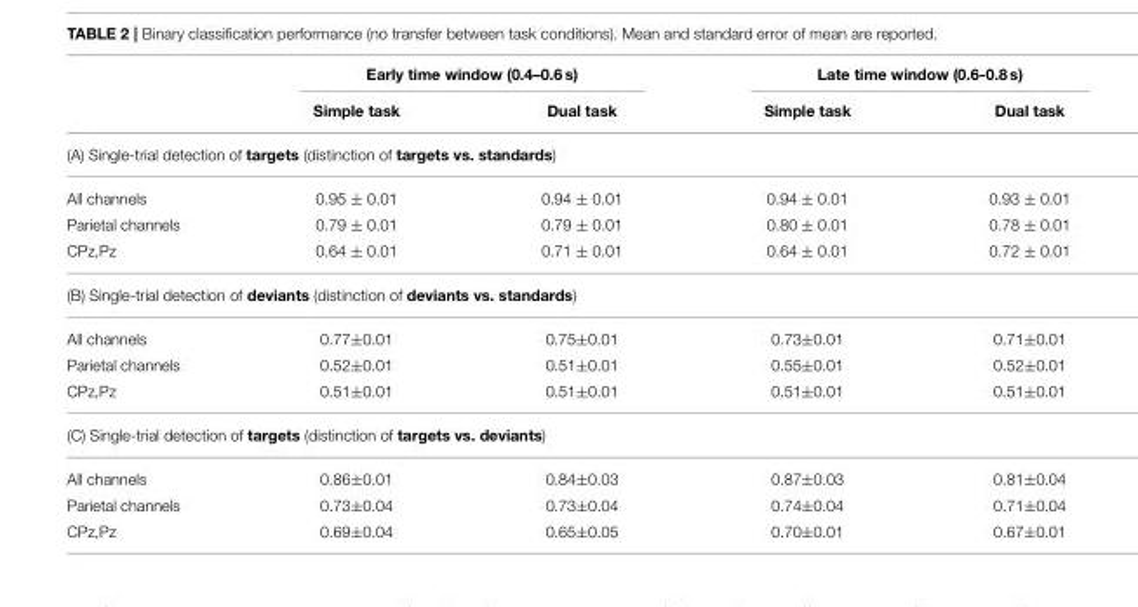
<table><thead><tr><td rowspan="2"></td><td colspan="2">Early time window (0.4–0.6 s)</td><td colspan="2">Late time window (0.6-0.8 s)</td></tr><tr><td>Simple task</td><td>Dual task</td><td>Simple task</td><td>Dual task</td></tr></thead><tbody><tr><td colspan="5">(A) Single-trial detection of targets (distinction of targets vs. standards)</td></tr><tr><td>All channels</td><td>0.95 ± 0.01</td><td>0.94 ± 0.01</td><td>0.94 ± 0.01</td><td>0.93 ± 0.01</td></tr><tr><td>Parietal channels</td><td>0.79 ± 0.01</td><td>0.79 ± 0.01</td><td>0.80 ± 0.01</td><td>0.78 ± 0.01</td></tr><tr><td>CPz,Pz</td><td>0.64 ± 0.01</td><td>0.71 ± 0.01</td><td>0.64 ± 0.01</td><td>0.72 ± 0.01</td></tr><tr><td colspan="5">(B) Single-trial detection of deviants (distinction of deviants vs. standards)</td></tr><tr><td>All channels</td><td>0.77±0.01</td><td>0.75±0.01</td><td>0.73±0.01</td><td>0.71±0.01</td></tr><tr><td>Parietal channels</td><td>0.52±0.01</td><td>0.51±0.01</td><td>0.55±0.01</td><td>0.52±0.01</td></tr><tr><td>CPz,Pz</td><td>0.51±0.01</td><td>0.51±0.01</td><td>0.51±0.01</td><td>0.51±0.01</td></tr><tr><td colspan="5">(C) Single-trial detection of targets (distinction of targets vs. deviants)</td></tr><tr><td>All channels</td><td>0.86±0.01</td><td>0.84±0.03</td><td>0.87±0.03</td><td>0.81±0.04</td></tr><tr><td>Parietal channels</td><td>0.73±0.04</td><td>0.73±0.04</td><td>0.74±0.04</td><td>0.71±0.04</td></tr><tr><td>CPz,Pz</td><td>0.69±0.04</td><td>0.65±0.05</td><td>0.70±0.01</td><td>0.67±0.01</td></tr></tbody></table>